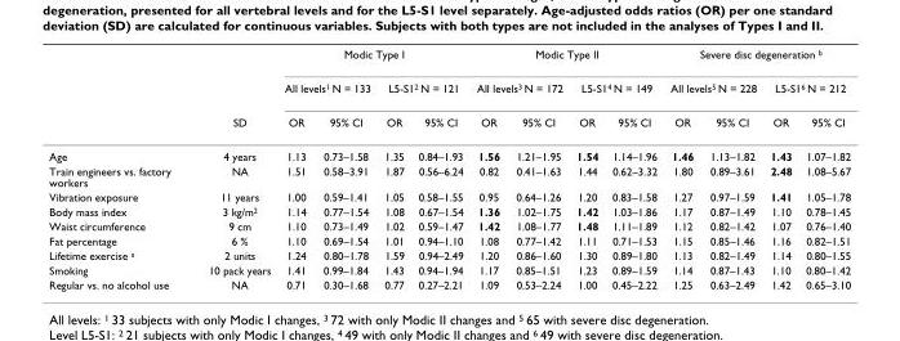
<table><thead><tr><td rowspan="3"></td><td rowspan="3">SD</td><td colspan="4">Modic Type I</td><td colspan="4">Modic Type II</td><td colspan="4">Severe disc degeneration <sup>b</sup></td></tr><tr><td colspan="2">All levels<sup>1</sup> N = 133</td><td colspan="2">L5-S1<sup>2</sup> N = 121</td><td colspan="2">All levels<sup>3</sup> N = 172</td><td colspan="2">L5-S1<sup>4</sup> N = 149</td><td colspan="2">All levels<sup>5</sup> N = 228</td><td colspan="2">L5-S1<sup>6</sup> N = 212</td></tr><tr><td>OR</td><td>95% CI</td><td>OR</td><td>95% CI</td><td>OR</td><td>95% CI</td><td>OR</td><td>95% CI</td><td>OR</td><td>95% CI</td><td>OR</td><td>95% CI</td></tr></thead><tbody><tr><td>Age</td><td>4 years</td><td>1.13</td><td>0.73–1.58</td><td>1.35</td><td>0.84–1.93</td><td>1.56</td><td>1.21–1.95</td><td>1.54</td><td>1.14–1.96</td><td>1.46</td><td>1.13–1.82</td><td>1.43</td><td>1.07–1.82</td></tr><tr><td>Train engineers vs. factory workers</td><td>NA</td><td>1.51</td><td>0.58–3.91</td><td>1.87</td><td>0.56–6.24</td><td>0.82</td><td>0.41–1.63</td><td>1.44</td><td>0.62–3.32</td><td>1.80</td><td>0.89–3.61</td><td>2.48</td><td>1.08–5.67</td></tr><tr><td>Vibration exposure</td><td>11 years</td><td>1.00</td><td>0.59–1.41</td><td>1.05</td><td>0.58–1.55</td><td>0.95</td><td>0.64–1.26</td><td>1.20</td><td>0.83–1.58</td><td>1.27</td><td>0.97–1.59</td><td>1.41</td><td>1.05–1.78</td></tr><tr><td>Body mass index</td><td>3 kg/m<sup>2</sup></td><td>1.14</td><td>0.77–1.54</td><td>1.08</td><td>0.67–1.54</td><td>1.36</td><td>1.02–1.75</td><td>1.42</td><td>1.03–1.86</td><td>1.17</td><td>0.87–1.49</td><td>1.10</td><td>0.78–1.45</td></tr><tr><td>Waist circumference</td><td>9 cm</td><td>1.10</td><td>0.73–1.49</td><td>1.02</td><td>0.59–1.47</td><td>1.42</td><td>1.08–1.77</td><td>1.48</td><td>1.11–1.89</td><td>1.12</td><td>0.82–1.42</td><td>1.07</td><td>0.76–1.40</td></tr><tr><td>Fat percentage</td><td>6 %</td><td>1.10</td><td>0.69–1.54</td><td>1.01</td><td>0.94–1.10</td><td>1.08</td><td>0.77–1.42</td><td>1.11</td><td>0.71–1.53</td><td>1.15</td><td>0.85–1.46</td><td>1.16</td><td>0.82–1.51</td></tr><tr><td>Lifetime exercise <sup>a</sup></td><td>2 units</td><td>1.24</td><td>0.80–1.78</td><td>1.59</td><td>0.94–2.49</td><td>1.20</td><td>0.86–1.60</td><td>1.30</td><td>0.89–1.80</td><td>1.13</td><td>0.82–1.49</td><td>1.14</td><td>0.80–1.55</td></tr><tr><td>Smoking</td><td>10 pack years</td><td>1.41</td><td>0.99–1.84</td><td>1.43</td><td>0.94–1.94</td><td>1.17</td><td>0.85–1.51</td><td>1.23</td><td>0.89–1.59</td><td>1.14</td><td>0.87–1.43</td><td>1.10</td><td>0.80–1.42</td></tr><tr><td>Regular vs. no alcohol use</td><td>NA</td><td>0.71</td><td>0.30–1.68</td><td>0.77</td><td>0.27–2.21</td><td>1.09</td><td>0.53–2.24</td><td>1.00</td><td>0.45–2.22</td><td>1.25</td><td>0.63–2.49</td><td>1.42</td><td>0.65–3.10</td></tr></tbody></table>